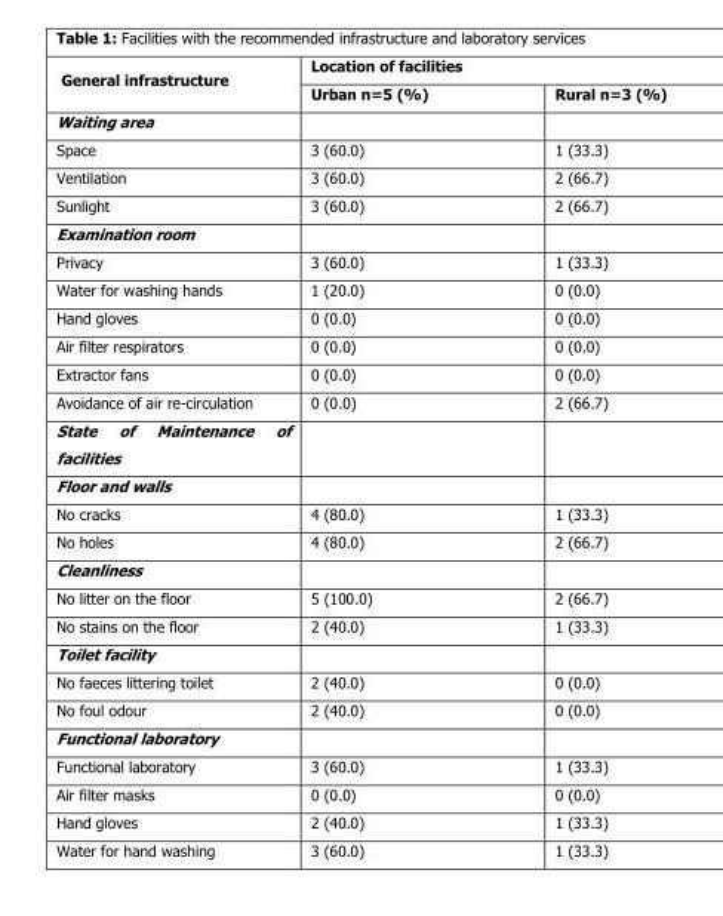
<table><thead><tr><td rowspan="2">General infrastructure</td><td colspan="2">Location of facilities</td></tr><tr><td>Urban n=5 (%)</td><td>Rural n=3 (%)</td></tr></thead><tbody><tr><td colspan="3">Waiting area</td></tr><tr><td>Space</td><td>3 (60.0)</td><td>1 (33.3)</td></tr><tr><td>Ventilation</td><td>3 (60.0)</td><td>2 (66.7)</td></tr><tr><td>Sunlight</td><td>3 (60.0)</td><td>2 (66.7)</td></tr><tr><td colspan="3">Examination room</td></tr><tr><td>Privacy</td><td>3 (60.0)</td><td>1 (33.3)</td></tr><tr><td>Water for washing hands</td><td>1 (20.0)</td><td>0 (0.0)</td></tr><tr><td>Hand gloves</td><td>0 (0.0)</td><td>0 (0.0)</td></tr><tr><td>Air filter respirators</td><td>0 (0.0)</td><td>0 (0.0)</td></tr><tr><td>Extractor fans</td><td>0 (0.0)</td><td>0 (0.0)</td></tr><tr><td>Avoidance of air re-circulation</td><td>0 (0.0)</td><td>2 (66.7)</td></tr><tr><td colspan="3">State of Maintenance of facilities</td></tr><tr><td colspan="3">Floor and walls</td></tr><tr><td>No cracks</td><td>4 (80.0)</td><td>1 (33.3)</td></tr><tr><td>No holes</td><td>4 (80.0)</td><td>2 (66.7)</td></tr><tr><td colspan="3">Cleanliness</td></tr><tr><td>No litter on the floor</td><td>5 (100.0)</td><td>2 (66.7)</td></tr><tr><td>No stains on the floor</td><td>2 (40.0)</td><td>1 (33.3)</td></tr><tr><td colspan="3">Toilet facility</td></tr><tr><td>No faeces littering toilet</td><td>2 (40.0)</td><td>0 (0.0)</td></tr><tr><td>No foul odour</td><td>2 (40.0)</td><td>0 (0.0)</td></tr><tr><td colspan="3">Functional laboratory</td></tr><tr><td>Functional laboratory</td><td>3 (60.0)</td><td>1 (33.3)</td></tr><tr><td>Air filter masks</td><td>0 (0.0)</td><td>0 (0.0)</td></tr><tr><td>Hand gloves</td><td>2 (40.0)</td><td>1 (33.3)</td></tr><tr><td>Water for hand washing</td><td>3 (60.0)</td><td>1 (33.3)</td></tr></tbody></table>